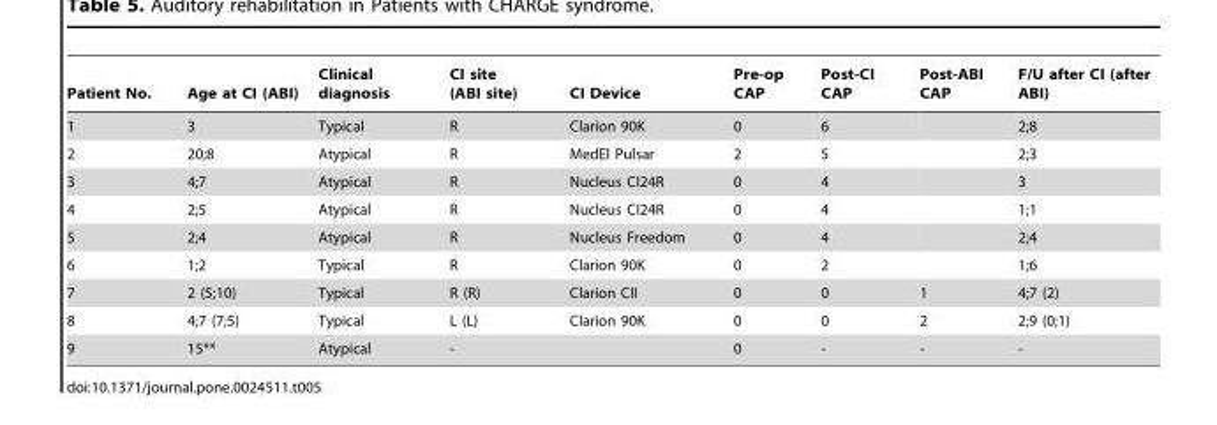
<table><thead><tr><td>Patient No.</td><td>Age at CI (ABI)</td><td>Clinical diagnosis</td><td>CI site (ABI site)</td><td>CI Device</td><td>Pre-op CAP</td><td>Post-CI CAP</td><td>Post-ABI CAP</td><td>F/U after CI (after ABI)</td></tr></thead><tbody><tr><td>1</td><td>3</td><td>Typical</td><td>R</td><td>Clarion 90K</td><td>0</td><td>6</td><td></td><td>2;8</td></tr><tr><td>2</td><td>20;8</td><td>Atypical</td><td>R</td><td>MedEl Pulsar</td><td>2</td><td>5</td><td></td><td>2;3</td></tr><tr><td>3</td><td>4;7</td><td>Atypical</td><td>R</td><td>Nucleus CI24R</td><td>0</td><td>4</td><td></td><td>3</td></tr><tr><td>4</td><td>2;5</td><td>Atypical</td><td>R</td><td>Nucleus CI24R</td><td>0</td><td>4</td><td></td><td>1;1</td></tr><tr><td>5</td><td>2;4</td><td>Atypical</td><td>R</td><td>Nucleus Freedom</td><td>0</td><td>4</td><td></td><td>2;4</td></tr><tr><td>6</td><td>1;2</td><td>Typical</td><td>R</td><td>Clarion 90K</td><td>0</td><td>2</td><td></td><td>1;6</td></tr><tr><td>7</td><td>2 (5;10)</td><td>Typical</td><td>R (R)</td><td>Clarion CII</td><td>0</td><td>0</td><td>1</td><td>4;7 (2)</td></tr><tr><td>8</td><td>4;7 (7;5)</td><td>Typical</td><td>L (L)</td><td>Clarion 90K</td><td>0</td><td>0</td><td>2</td><td>2;9 (0;1)</td></tr><tr><td>9</td><td>15**</td><td>Atypical</td><td>-</td><td></td><td>0</td><td>-</td><td>-</td><td>-</td></tr></tbody></table>